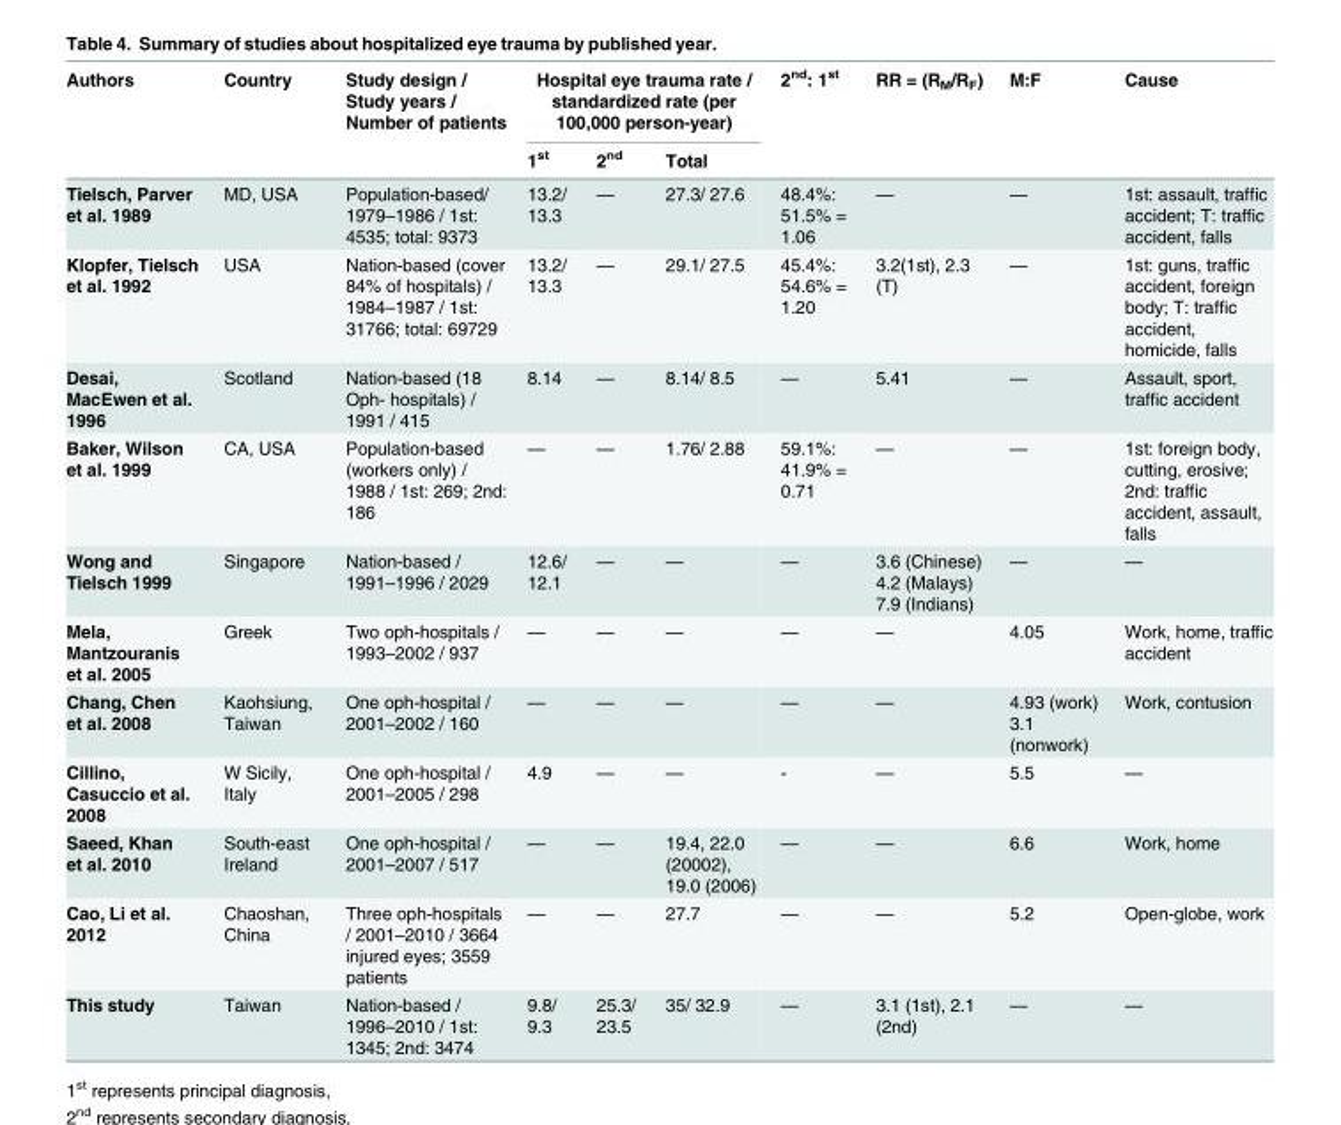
<table><thead><tr><td rowspan="2">Authors</td><td rowspan="2">Country</td><td rowspan="2">Study design / Study years / Number of patients</td><td colspan="3">Hospital eye trauma rate / standardized rate (per 100,000 person-year)</td><td rowspan="2">2<sup>nd</sup>: 1<sup>st</sup></td><td rowspan="2">RR = (R<sub>M</sub>/R<sub>F</sub>)</td><td rowspan="2">M:F</td><td rowspan="2">Cause</td></tr><tr><td>1<sup>st</sup></td><td>2<sup>nd</sup></td><td>Total</td></tr></thead><tbody><tr><td>Tielsch, Parver et al. 1989</td><td>MD, USA</td><td>Population-based/ 1979–1986 / 1st: 4535; total: 9373</td><td>13.2/ 13.3</td><td>—</td><td>27.3/ 27.6</td><td>48.4%: 51.5% = 1.06</td><td>—</td><td>—</td><td>1st: assault, traffic accident; T: traffic accident, falls</td></tr><tr><td>Klopfer, Tielsch et al. 1992</td><td>USA</td><td>Nation-based (cover 84% of hospitals) / 1984–1987 / 1st: 31766; total: 69729</td><td>13.2/ 13.3</td><td>—</td><td>29.1/ 27.5</td><td>45.4%: 54.6% = 1.20</td><td>3.2(1st), 2.3 (T)</td><td>—</td><td>1st: guns, traffic accident, foreign body; T: traffic accident, homicide, falls</td></tr><tr><td>Desai, MacEwen et al. 1996</td><td>Scotland</td><td>Nation-based (18 Oph- hospitals) / 1991 / 415</td><td>8.14</td><td>—</td><td>8.14/ 8.5</td><td>—</td><td>5.41</td><td>—</td><td>Assault, sport, traffic accident</td></tr><tr><td>Baker, Wilson et al. 1999</td><td>CA, USA</td><td>Population-based (workers only) / 1988 / 1st: 269; 2nd: 186</td><td>—</td><td>—</td><td>1.76/ 2.88</td><td>59.1%: 41.9% = 0.71</td><td>—</td><td>—</td><td>1st: foreign body, cutting, erosive; 2nd: traffic accident, assault, falls</td></tr><tr><td>Wong and Tielsch 1999</td><td>Singapore</td><td>Nation-based / 1991–1996 / 2029</td><td>12.6/ 12.1</td><td>—</td><td>—</td><td>—</td><td>3.6 (Chinese) 4.2 (Malays) 7.9 (Indians)</td><td>—</td><td>—</td></tr><tr><td>Mela, Mantzouranis et al. 2005</td><td>Greek</td><td>Two oph-hospitals / 1993–2002 / 937</td><td>—</td><td>—</td><td>—</td><td>—</td><td>—</td><td>4.05</td><td>Work, home, traffic accident</td></tr><tr><td>Chang, Chen et al. 2008</td><td>Kaohsiung, Taiwan</td><td>One oph-hospital / 2001–2002 / 160</td><td>—</td><td>—</td><td>—</td><td>—</td><td>—</td><td>4.93 (work) 3.1 (nonwork)</td><td>Work, contusion</td></tr><tr><td>Cillino, Casuccio et al. 2008</td><td>W Sicily, Italy</td><td>One oph-hospital / 2001–2005 / 298</td><td>4.9</td><td>—</td><td>—</td><td>-</td><td>—</td><td>5.5</td><td>—</td></tr><tr><td>Saeed, Khan et al. 2010</td><td>South-east Ireland</td><td>One oph-hospital / 2001–2007 / 517</td><td>—</td><td>—</td><td>19.4, 22.0 (20002), 19.0 (2006)</td><td>—</td><td>—</td><td>6.6</td><td>Work, home</td></tr><tr><td>Cao, Li et al. 2012</td><td>Chaoshan, China</td><td>Three oph-hospitals / 2001–2010 / 3664 injured eyes; 3559 patients</td><td>—</td><td>—</td><td>27.7</td><td>—</td><td>—</td><td>5.2</td><td>Open-globe, work</td></tr><tr><td>This study</td><td>Taiwan</td><td>Nation-based / 1996–2010 / 1st: 1345; 2nd: 3474</td><td>9.8/ 9.3</td><td>25.3/ 23.5</td><td>35/ 32.9</td><td>—</td><td>3.1 (1st), 2.1 (2nd)</td><td>—</td><td>—</td></tr></tbody></table>